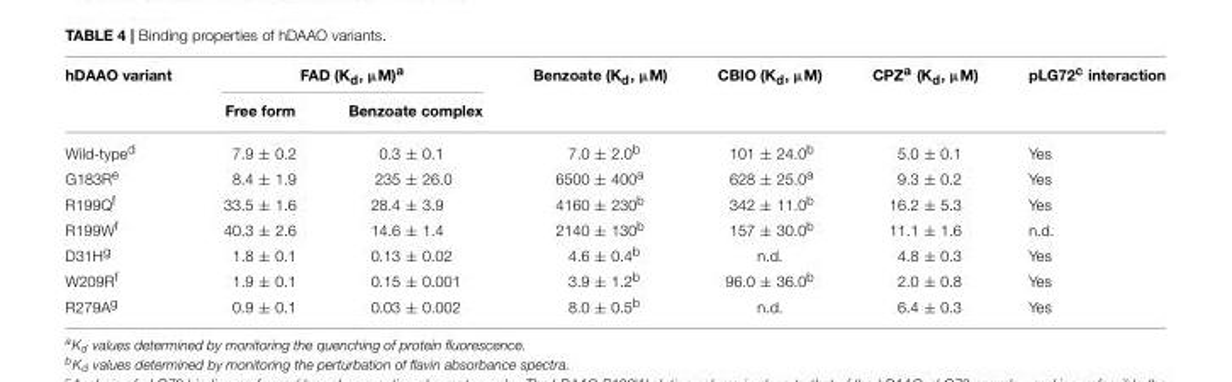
<table><thead><tr><td rowspan="2">hDAAO variant</td><td colspan="2">FAD (K<sub>d</sub>, µM)<sup>a</sup></td><td rowspan="2">Benzoate (K<sub>d</sub>, µM)</td><td rowspan="2">CBIO (K<sub>d</sub>, µM)</td><td rowspan="2">CPZ<sup>a</sup> (K<sub>d</sub>, µM)</td><td rowspan="2">pLG72<sup>c</sup> interaction</td></tr><tr><td>Free form</td><td>Benzoate complex</td></tr></thead><tbody><tr><td>Wild-type<sup>d</sup></td><td>7.9 ± 0.2</td><td>0.3 ± 0.1</td><td>7.0 ± 2.0<sup>b</sup></td><td>101 ± 24.0<sup>b</sup></td><td>5.0 ± 0.1</td><td>Yes</td></tr><tr><td>G183R<sup>e</sup></td><td>8.4 ± 1.9</td><td>235 ± 26.0</td><td>6500 ± 400<sup>a</sup></td><td>628 ± 25.0<sup>a</sup></td><td>9.3 ± 0.2</td><td>Yes</td></tr><tr><td>R199Q<sup>f</sup></td><td>33.5 ± 1.6</td><td>28.4 ± 3.9</td><td>4160 ± 230<sup>b</sup></td><td>342 ± 11.0<sup>b</sup></td><td>16.2 ± 5.3</td><td>Yes</td></tr><tr><td>R199W<sup>f</sup></td><td>40.3 ± 2.6</td><td>14.6 ± 1.4</td><td>2140 ± 130<sup>b</sup></td><td>157 ± 30.0<sup>b</sup></td><td>11.1 ± 1.6</td><td>n.d.</td></tr><tr><td>D31H<sup>g</sup></td><td>1.8 ± 0.1</td><td>0.13 ± 0.02</td><td>4.6 ± 0.4<sup>b</sup></td><td>n.d.</td><td>4.8 ± 0.3</td><td>Yes</td></tr><tr><td>W209R<sup>f</sup></td><td>1.9 ± 0.1</td><td>0.15 ± 0.001</td><td>3.9 ± 1.2<sup>b</sup></td><td>96.0 ± 36.0<sup>b</sup></td><td>2.0 ± 0.8</td><td>Yes</td></tr><tr><td>R279A<sup>g</sup></td><td>0.9 ± 0.1</td><td>0.03 ± 0.002</td><td>8.0 ± 0.5<sup>b</sup></td><td>n.d.</td><td>6.4 ± 0.3</td><td>Yes</td></tr></tbody></table>